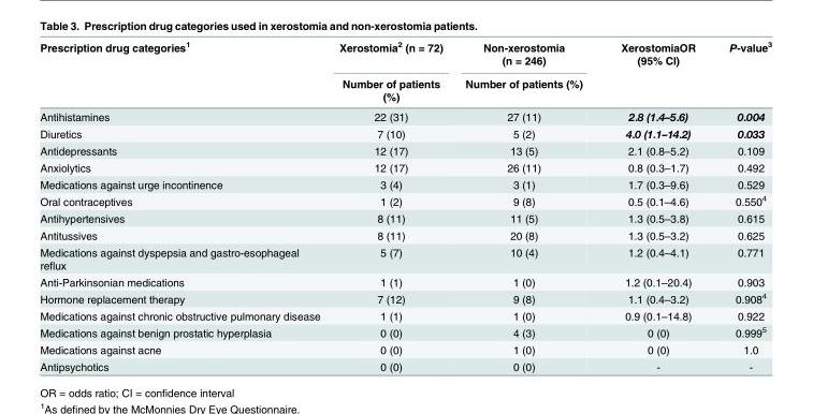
<table><thead><tr><td rowspan="2">Prescription drug categories<sup>1</sup></td><td rowspan="2">Xerostomia<sup>2</sup> (n = 72) Number of patients (%)</td><td rowspan="2">Non-xerostomia (n = 246) Number of patients (%)</td><td rowspan="2">XerostomiaOR (95% CI)</td><td rowspan="2">P-value<sup>3</sup></td></tr><tr></tr></thead><tbody><tr><td>Antihistamines</td><td>22 (31)</td><td>27 (11)</td><td>2.8 (1.4–5.6)</td><td>0.004</td></tr><tr><td>Diuretics</td><td>7 (10)</td><td>5 (2)</td><td>4.0 (1.1–14.2)</td><td>0.033</td></tr><tr><td>Antidepressants</td><td>12 (17)</td><td>13 (5)</td><td>2.1 (0.8–5.2)</td><td>0.109</td></tr><tr><td>Anxiolytics</td><td>12 (17)</td><td>26 (11)</td><td>0.8 (0.3–1.7)</td><td>0.492</td></tr><tr><td>Medications against urge incontinence</td><td>3 (4)</td><td>3 (1)</td><td>1.7 (0.3–9.6)</td><td>0.529</td></tr><tr><td>Oral contraceptives</td><td>1 (2)</td><td>9 (8)</td><td>0.5 (0.1–4.6)</td><td>0.550<sup>4</sup></td></tr><tr><td>Antihypertensives</td><td>8 (11)</td><td>11 (5)</td><td>1.3 (0.5–3.8)</td><td>0.615</td></tr><tr><td>Antitussives</td><td>8 (11)</td><td>20 (8)</td><td>1.3 (0.5–3.2)</td><td>0.625</td></tr><tr><td>Medications against dyspepsia and gastro-esophageal reflux</td><td>5 (7)</td><td>10 (4)</td><td>1.2 (0.4–4.1)</td><td>0.771</td></tr><tr><td>Anti-Parkinsonian medications</td><td>1 (1)</td><td>1 (0)</td><td>1.2 (0.1–20.4)</td><td>0.903</td></tr><tr><td>Hormone replacement therapy</td><td>7 (12)</td><td>9 (8)</td><td>1.1 (0.4–3.2)</td><td>0.908<sup>4</sup></td></tr><tr><td>Medications against chronic obstructive pulmonary disease</td><td>1 (1)</td><td>1 (0)</td><td>0.9 (0.1–14.8)</td><td>0.922</td></tr><tr><td>Medications against benign prostatic hyperplasia</td><td>0 (0)</td><td>4 (3)</td><td>0 (0)</td><td>0.999<sup>5</sup></td></tr><tr><td>Medications against acne</td><td>0 (0)</td><td>1 (0)</td><td>0 (0)</td><td>1.0</td></tr><tr><td>Antipsychotics</td><td>0 (0)</td><td>0 (0)</td><td>-</td><td>-</td></tr></tbody></table>